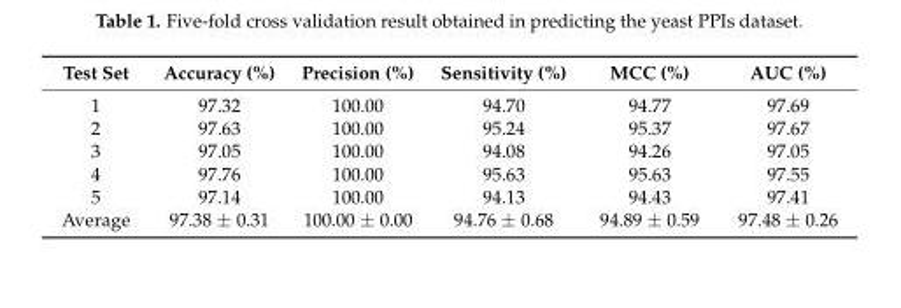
<table><thead><tr><td>Test Set</td><td>Accuracy (%)</td><td>Precision (%)</td><td>Sensitivity (%)</td><td>MCC (%)</td><td>AUC (%)</td></tr></thead><tbody><tr><td>1</td><td>97.32</td><td>100.00</td><td>94.70</td><td>94.77</td><td>97.69</td></tr><tr><td>2</td><td>97.63</td><td>100.00</td><td>95.24</td><td>95.37</td><td>97.67</td></tr><tr><td>3</td><td>97.05</td><td>100.00</td><td>94.08</td><td>94.26</td><td>97.05</td></tr><tr><td>4</td><td>97.76</td><td>100.00</td><td>95.63</td><td>95.63</td><td>97.55</td></tr><tr><td>5</td><td>97.14</td><td>100.00</td><td>94.13</td><td>94.43</td><td>97.41</td></tr><tr><td>Average</td><td>97.38 ± 0.31</td><td>100.00 ± 0.00</td><td>94.76 ± 0.68</td><td>94.89 ± 0.59</td><td>97.48 ± 0.26</td></tr></tbody></table>